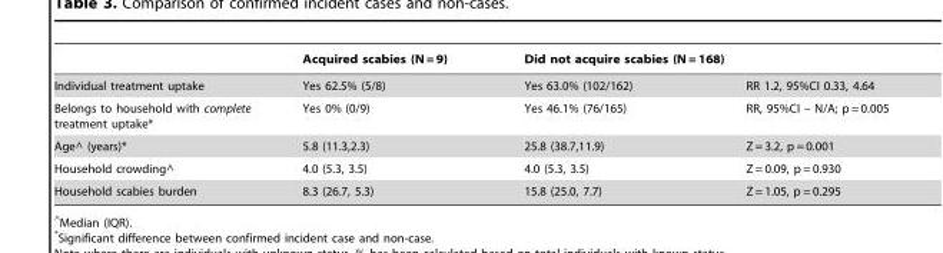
<table><thead><tr><td></td><td>Acquired scabies (N = 9)</td><td>Did not acquire scabies (N = 168)</td><td></td></tr></thead><tbody><tr><td>Individual treatment uptake</td><td>Yes 62.5% (5/8)</td><td>Yes 63.0% (102/162)</td><td>RR 1.2, 95%CI 0.33, 4.64</td></tr><tr><td>Belongs to household with complete treatment uptake*</td><td>Yes 0% (0/9)</td><td>Yes 46.1% (76/165)</td><td>RR, 95%CI – N/A; p = 0.005</td></tr><tr><td>Age∧ (years)*</td><td>5.8 (11.3,2.3)</td><td>25.8 (38.7,11.9)</td><td>Z = 3.2, p = 0.001</td></tr><tr><td>Household crowding∧</td><td>4.0 (5.3, 3.5)</td><td>4.0 (5.3, 3.5)</td><td>Z = 0.09, p = 0.930</td></tr><tr><td>Household scabies burden</td><td>8.3 (26.7, 5.3)</td><td>15.8 (25.0, 7.7)</td><td>Z = 1.05, p = 0.295</td></tr></tbody></table>